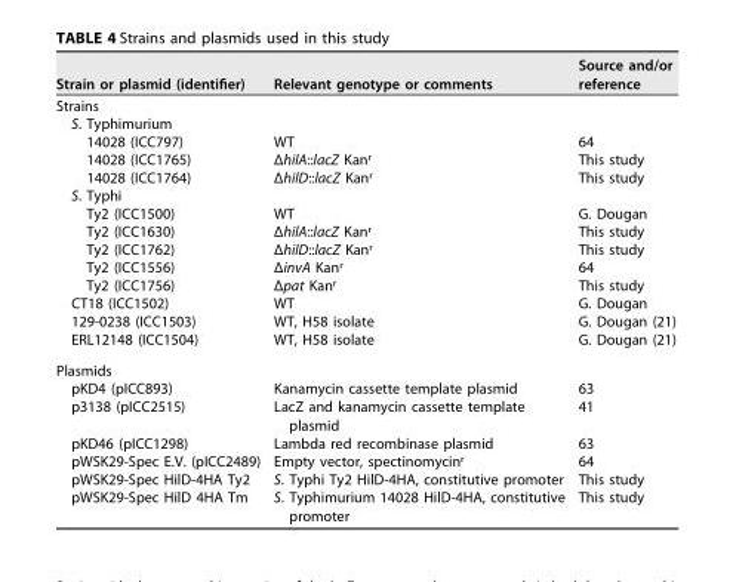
<table><thead><tr><td>Strain or plasmid (identifier)</td><td>Relevant genotype or comments</td><td>Source and/or reference</td></tr></thead><tbody><tr><td colspan="3">Strains</td></tr><tr><td colspan="3">S. Typhimurium</td></tr><tr><td>14028 (ICC797)</td><td>WT</td><td>64</td></tr><tr><td>14028 (ICC1765)</td><td>ΔhilA::lacZ Kan<sup>r</sup></td><td>This study</td></tr><tr><td>14028 (ICC1764)</td><td>ΔhilD::lacZ Kan<sup>r</sup></td><td>This study</td></tr><tr><td colspan="3">S. Typhi</td></tr><tr><td>Ty2 (ICC1500)</td><td>WT</td><td>G. Dougan</td></tr><tr><td>Ty2 (ICC1630)</td><td>ΔhilA::lacZ Kan<sup>r</sup></td><td>This study</td></tr><tr><td>Ty2 (ICC1762)</td><td>ΔhilD::lacZ Kan<sup>r</sup></td><td>This study</td></tr><tr><td>Ty2 (ICC1556)</td><td>ΔinvA Kan<sup>r</sup></td><td>64</td></tr><tr><td>Ty2 (ICC1756)</td><td>Δpat Kan<sup>r</sup></td><td>This study</td></tr><tr><td>CT18 (ICC1502)</td><td>WT</td><td>G. Dougan</td></tr><tr><td>129-0238 (ICC1503)</td><td>WT, H58 isolate</td><td>G. Dougan (21)</td></tr><tr><td>ERL12148 (ICC1504)</td><td>WT, H58 isolate</td><td>G. Dougan (21)</td></tr><tr><td colspan="3">Plasmids</td></tr><tr><td>pKD4 (pICC893)</td><td>Kanamycin cassette template plasmid</td><td>63</td></tr><tr><td>p3138 (pICC2515)</td><td>LacZ and kanamycin cassette template plasmid</td><td>41</td></tr><tr><td>pKD46 (pICC1298)</td><td>Lambda red recombinase plasmid</td><td>63</td></tr><tr><td>pWSK29-Spec E.V. (pICC2489)</td><td>Empty vector, spectinomycin<sup>r</sup></td><td>64</td></tr><tr><td>pWSK29-Spec HilD-4HA Ty2</td><td>S. Typhi Ty2 HilD-4HA, constitutive promoter</td><td>This study</td></tr><tr><td>pWSK29-Spec HilD 4HA Tm</td><td>S. Typhimurium 14028 HilD-4HA, constitutive promoter</td><td>This study</td></tr></tbody></table>